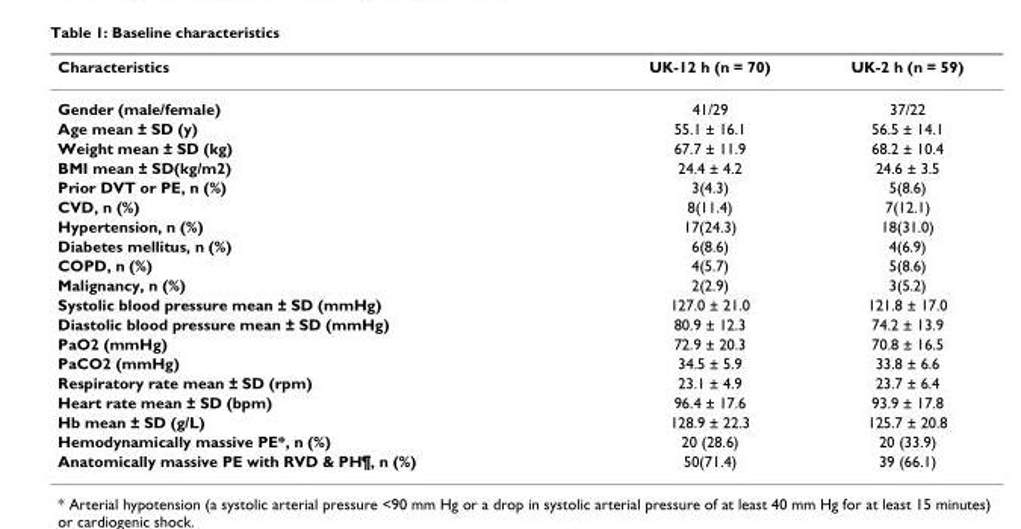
<table><thead><tr><td>Characteristics</td><td>UK-12 h (n = 70)</td><td>UK-2 h (n = 59)</td></tr></thead><tbody><tr><td>Gender (male/female)</td><td>41/29</td><td>37/22</td></tr><tr><td>Age mean ± SD (y)</td><td>55.1 ± 16.1</td><td>56.5 ± 14.1</td></tr><tr><td>Weight mean ± SD (kg)</td><td>67.7 ± 11.9</td><td>68.2 ± 10.4</td></tr><tr><td>BMI mean ± SD(kg/m2)</td><td>24.4 ± 4.2</td><td>24.6 ± 3.5</td></tr><tr><td>Prior DVT or PE, n (%)</td><td>3(4.3)</td><td>5(8.6)</td></tr><tr><td>CVD, n (%)</td><td>8(11.4)</td><td>7(12.1)</td></tr><tr><td>Hypertension, n (%)</td><td>17(24.3)</td><td>18(31.0)</td></tr><tr><td>Diabetes mellitus, n (%)</td><td>6(8.6)</td><td>4(6.9)</td></tr><tr><td>COPD, n (%)</td><td>4(5.7)</td><td>5(8.6)</td></tr><tr><td>Malignancy, n (%)</td><td>2(2.9)</td><td>3(5.2)</td></tr><tr><td>Systolic blood pressure mean ± SD (mmHg)</td><td>127.0 ± 21.0</td><td>121.8 ± 17.0</td></tr><tr><td>Diastolic blood pressure mean ± SD (mmHg)</td><td>80.9 ± 12.3</td><td>74.2 ± 13.9</td></tr><tr><td>PaO2 (mmHg)</td><td>72.9 ± 20.3</td><td>70.8 ± 16.5</td></tr><tr><td>PaCO2 (mmHg)</td><td>34.5 ± 5.9</td><td>33.8 ± 6.6</td></tr><tr><td>Respiratory rate mean ± SD (rpm)</td><td>23.1 ± 4.9</td><td>23.7 ± 6.4</td></tr><tr><td>Heart rate mean ± SD (bpm)</td><td>96.4 ± 17.6</td><td>93.9 ± 17.8</td></tr><tr><td>Hb mean ± SD (g/L)</td><td>128.9 ± 22.3</td><td>125.7 ± 20.8</td></tr><tr><td>Hemodynamically massive PE*, n (%)</td><td>20 (28.6)</td><td>20 (33.9)</td></tr><tr><td>Anatomically massive PE with RVD &amp; PH¶, n (%)</td><td>50(71.4)</td><td>39 (66.1)</td></tr></tbody></table>